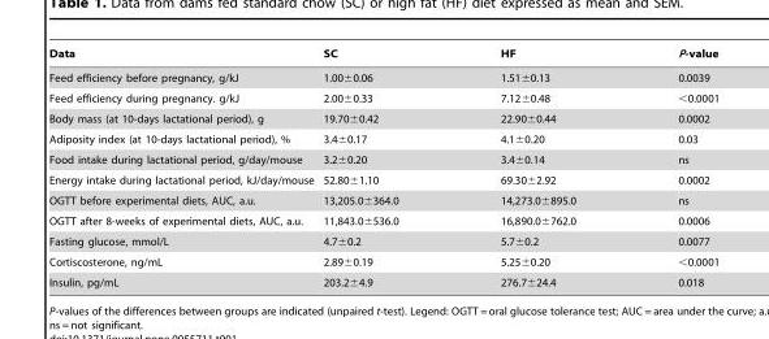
<table><thead><tr><td>Data</td><td>SC</td><td>HF</td><td>P-value</td></tr></thead><tbody><tr><td>Feed efficiency before pregnancy, g/kJ</td><td>1.00±0.06</td><td>1.51±0.13</td><td>0.0039</td></tr><tr><td>Feed efficiency during pregnancy. g/kJ</td><td>2.00±0.33</td><td>7.12±0.48</td><td>&lt;0.0001</td></tr><tr><td>Body mass (at 10-days lactational period), g</td><td>19.70±0.42</td><td>22.90±0.44</td><td>0.0002</td></tr><tr><td>Adiposity index (at 10-days lactational period), %</td><td>3.4±0.17</td><td>4.1±0.20</td><td>0.03</td></tr><tr><td>Food intake during lactational period, g/day/mouse</td><td>3.2±0.20</td><td>3.4±0.14</td><td>ns</td></tr><tr><td>Energy intake during lactational period, kJ/day/mouse</td><td>52.80±1.10</td><td>69.30±2.92</td><td>0.0002</td></tr><tr><td>OGTT before experimental diets, AUC, a.u.</td><td>13,205.0±364.0</td><td>14,273.0±895.0</td><td>ns</td></tr><tr><td>OGTT after 8-weeks of experimental diets, AUC, a.u.</td><td>11,843.0±536.0</td><td>16,890.0±762.0</td><td>0.0006</td></tr><tr><td>Fasting glucose, mmol/L</td><td>4.7±0.2</td><td>5.7±0.2</td><td>0.0077</td></tr><tr><td>Cortiscosterone, ng/mL</td><td>2.89±0.19</td><td>5.25±0.20</td><td>&lt;0.0001</td></tr><tr><td>Insulin, pg/mL</td><td>203.2±4.9</td><td>276.7±24.4</td><td>0.018</td></tr></tbody></table>